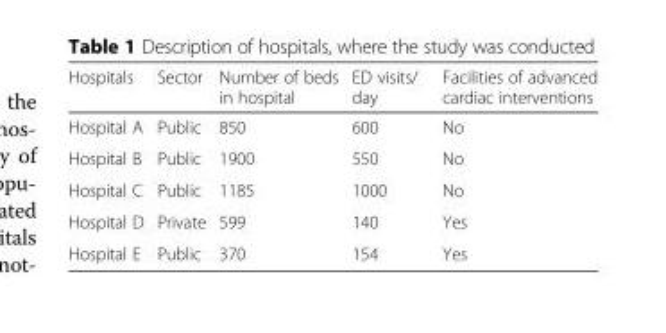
<table><thead><tr><td>Hospitals</td><td>Sector</td><td>Number of beds in hospital</td><td>ED visits/ day</td><td>Facilities of advanced cardiac interventions</td></tr></thead><tbody><tr><td>Hospital A</td><td>Public</td><td>850</td><td>600</td><td>No</td></tr><tr><td>Hospital B</td><td>Public</td><td>1900</td><td>550</td><td>No</td></tr><tr><td>Hospital C</td><td>Public</td><td>1185</td><td>1000</td><td>No</td></tr><tr><td>Hospital D</td><td>Private</td><td>599</td><td>140</td><td>Yes</td></tr><tr><td>Hospital E</td><td>Public</td><td>370</td><td>154</td><td>Yes</td></tr></tbody></table>